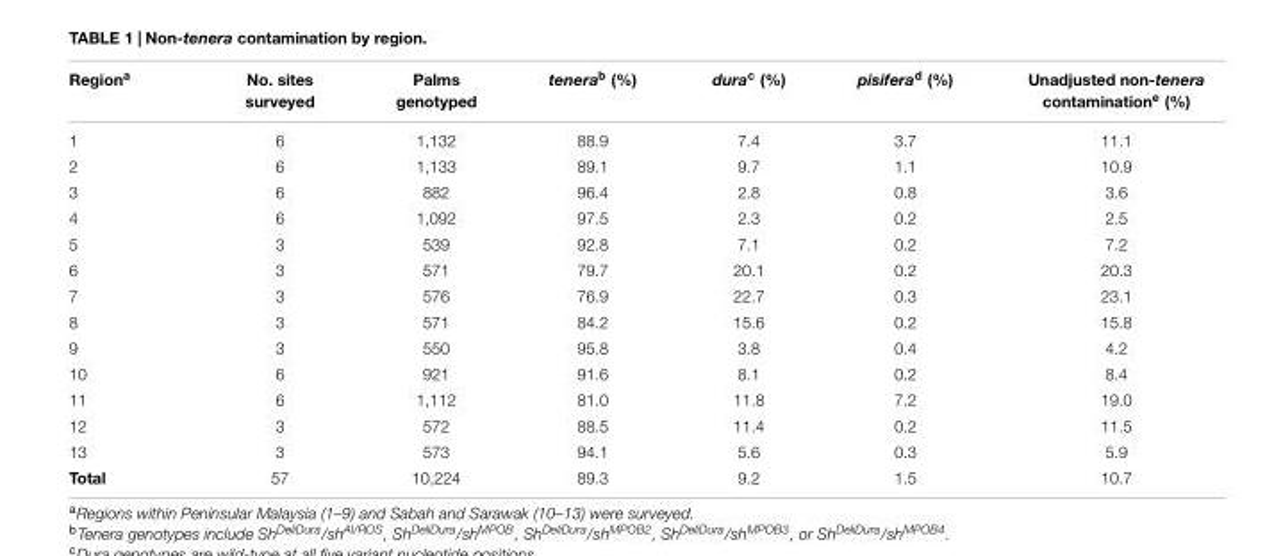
<table><thead><tr><td>Region<sup>a</sup></td><td>No. sites surveyed</td><td>Palms genotyped</td><td>tenera<sup>b</sup> (%)</td><td>dura<sup>c</sup> (%)</td><td>pisifera<sup>d</sup> (%)</td><td>Unadjusted non-tenera contamination<sup>e</sup> (%)</td></tr></thead><tbody><tr><td>1</td><td>6</td><td>1,132</td><td>88.9</td><td>7.4</td><td>3.7</td><td>11.1</td></tr><tr><td>2</td><td>6</td><td>1,133</td><td>89.1</td><td>9.7</td><td>1.1</td><td>10.9</td></tr><tr><td>3</td><td>6</td><td>882</td><td>96.4</td><td>2.8</td><td>0.8</td><td>3.6</td></tr><tr><td>4</td><td>6</td><td>1,092</td><td>97.5</td><td>2.3</td><td>0.2</td><td>2.5</td></tr><tr><td>5</td><td>3</td><td>539</td><td>92.8</td><td>7.1</td><td>0.2</td><td>7.2</td></tr><tr><td>6</td><td>3</td><td>571</td><td>79.7</td><td>20.1</td><td>0.2</td><td>20.3</td></tr><tr><td>7</td><td>3</td><td>576</td><td>76.9</td><td>22.7</td><td>0.3</td><td>23.1</td></tr><tr><td>8</td><td>3</td><td>571</td><td>84.2</td><td>15.6</td><td>0.2</td><td>15.8</td></tr><tr><td>9</td><td>3</td><td>550</td><td>95.8</td><td>3.8</td><td>0.4</td><td>4.2</td></tr><tr><td>10</td><td>6</td><td>921</td><td>91.6</td><td>8.1</td><td>0.2</td><td>8.4</td></tr><tr><td>11</td><td>6</td><td>1,112</td><td>81.0</td><td>11.8</td><td>7.2</td><td>19.0</td></tr><tr><td>12</td><td>3</td><td>572</td><td>88.5</td><td>11.4</td><td>0.2</td><td>11.5</td></tr><tr><td>13</td><td>3</td><td>573</td><td>94.1</td><td>5.6</td><td>0.3</td><td>5.9</td></tr><tr><td>Total</td><td>57</td><td>10,224</td><td>89.3</td><td>9.2</td><td>1.5</td><td>10.7</td></tr></tbody></table>